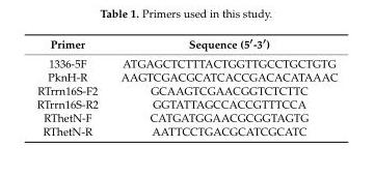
<table><thead><tr><td>Primer</td><td>Sequence (5′-3′)</td></tr></thead><tbody><tr><td>1336-5F</td><td>ATGAGCTCTTTACTGGTTGCCTGCTGTG</td></tr><tr><td>PknH-R</td><td>AAGTCGACGCATCACCGACACATAAAC</td></tr><tr><td>RTrrn16S-F2</td><td>GCAAGTCGAACGGTCTCTTC</td></tr><tr><td>RTrrn16S-R2</td><td>GGTATTAGCCACCGTTTCCA</td></tr><tr><td>RThetN-F</td><td>CATGATGGAACGCGGTAGTG</td></tr><tr><td>RThetN-R</td><td>AATTCCTGACGCATCGCATC</td></tr></tbody></table>